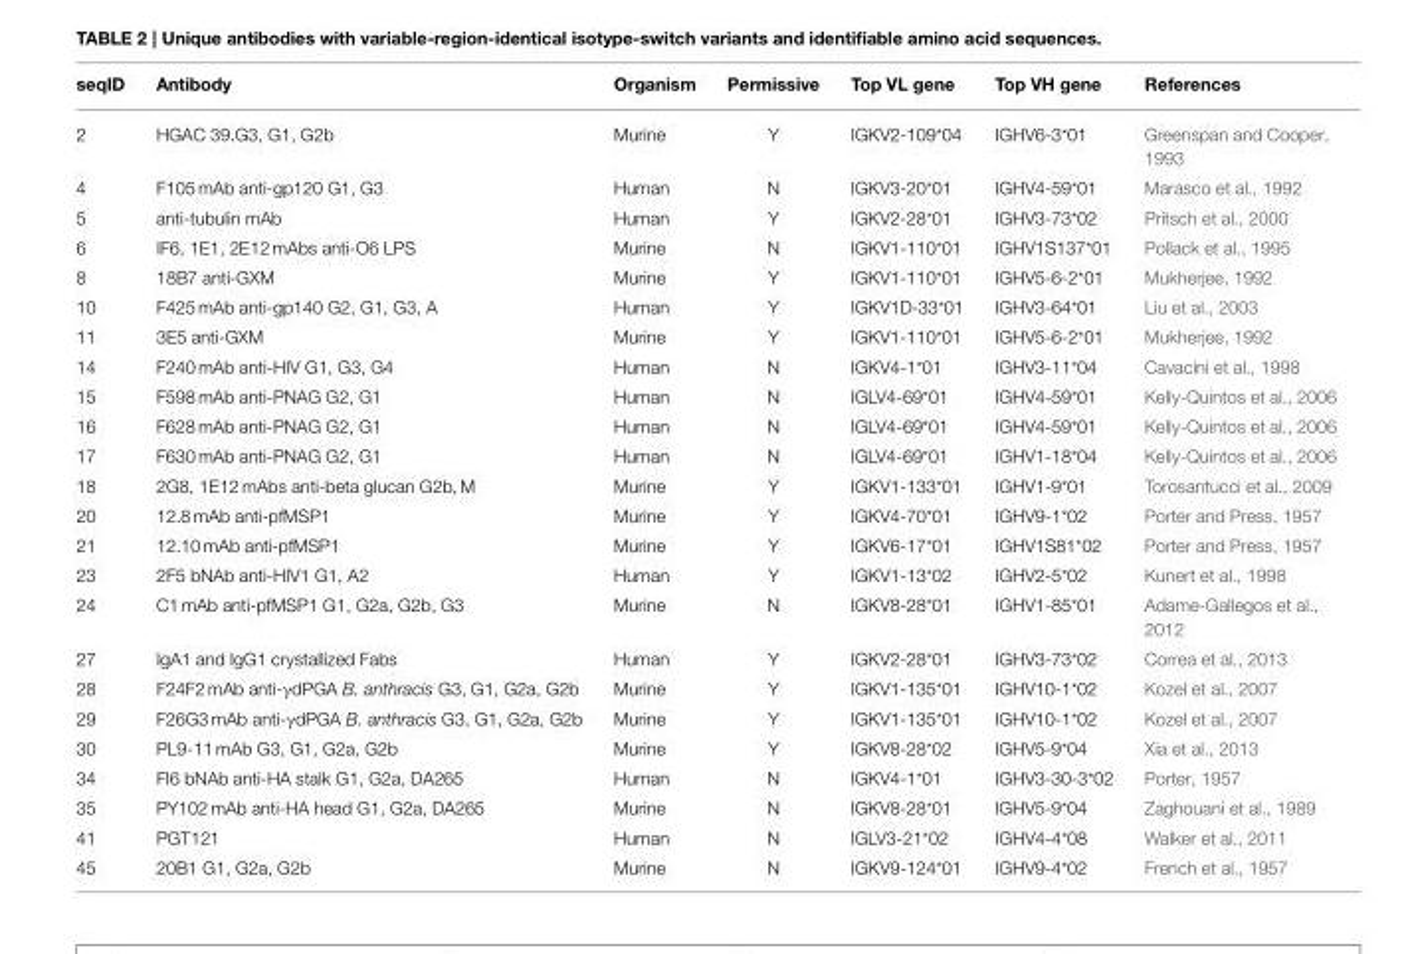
<table><thead><tr><td>seqID</td><td>Antibody</td><td>Organism</td><td>Permissive</td><td>Top VL gene</td><td>Top VH gene</td><td>References</td></tr></thead><tbody><tr><td>2</td><td>HGAC 39.G3, G1, G2b</td><td>Murine</td><td>Y</td><td>IGKV2-109*04</td><td>IGHV6-3*01</td><td>Greenspan and Cooper, 1993</td></tr><tr><td>4</td><td>F105 mAb anti-gp120 G1, G3</td><td>Human</td><td>N</td><td>IGKV3-20*01</td><td>IGHV4-59*01</td><td>Marasco et al., 1992</td></tr><tr><td>5</td><td>anti-tubulin mAb</td><td>Human</td><td>Y</td><td>IGKV2-28*01</td><td>IGHV3-73*02</td><td>Pritsch et al., 2000</td></tr><tr><td>6</td><td>IF6, 1E1, 2E12 mAbs anti-O6 LPS</td><td>Murine</td><td>N</td><td>IGKV1-110*01</td><td>IGHV1S137*01</td><td>Pollack et al., 1995</td></tr><tr><td>8</td><td>18B7 anti-GXM</td><td>Murine</td><td>Y</td><td>IGKV1-110*01</td><td>IGHV5-6-2*01</td><td>Mukherjee, 1992</td></tr><tr><td>10</td><td>F425 mAb anti-gp140 G2, G1, G3, A</td><td>Human</td><td>Y</td><td>IGKV1D-33*01</td><td>IGHV3-64*01</td><td>Liu et al., 2003</td></tr><tr><td>11</td><td>3E5 anti-GXM</td><td>Murine</td><td>Y</td><td>IGKV1-110*01</td><td>IGHV5-6-2*01</td><td>Mukherjee, 1992</td></tr><tr><td>14</td><td>F240 mAb anti-HIV G1, G3, G4</td><td>Human</td><td>N</td><td>IGKV4-1*01</td><td>IGHV3-11*04</td><td>Cavacini et al., 1998</td></tr><tr><td>15</td><td>F598 mAb anti-PNAG G2, G1</td><td>Human</td><td>N</td><td>IGLV4-69*01</td><td>IGHV4-59*01</td><td>Kelly-Quintos et al., 2006</td></tr><tr><td>16</td><td>F628 mAb anti-PNAG G2, G1</td><td>Human</td><td>N</td><td>IGLV4-69*01</td><td>IGHV4-59*01</td><td>Kelly-Quintos et al., 2006</td></tr><tr><td>17</td><td>F630 mAb anti-PNAG G2, G1</td><td>Human</td><td>N</td><td>IGLV4-69*01</td><td>IGHV1-18*04</td><td>Kelly-Quintos et al., 2006</td></tr><tr><td>18</td><td>2G8, 1E12 mAbs anti-beta glucan G2b, M</td><td>Murine</td><td>Y</td><td>IGKV1-133*01</td><td>IGHV1-9*01</td><td>Torosantucci et al., 2009</td></tr><tr><td>20</td><td>12.8 mAb anti-pfMSP1</td><td>Murine</td><td>Y</td><td>IGKV4-70*01</td><td>IGHV9-1*02</td><td>Porter and Press, 1957</td></tr><tr><td>21</td><td>12.10 mAb anti-pfMSP1</td><td>Murine</td><td>Y</td><td>IGKV6-17*01</td><td>IGHV1S81*02</td><td>Porter and Press, 1957</td></tr><tr><td>23</td><td>2F5 bNAb anti-HIV1 G1, A2</td><td>Human</td><td>Y</td><td>IGKV1-13*02</td><td>IGHV2-5*02</td><td>Kunert et al., 1998</td></tr><tr><td>24</td><td>C1 mAb anti-pfMSP1 G1, G2a, G2b, G3</td><td>Murine</td><td>N</td><td>IGKV8-28*01</td><td>IGHV1-85*01</td><td>Adame-Gallegos et al., 2012</td></tr><tr><td>27</td><td>IgA1 and IgG1 crystallized Fabs</td><td>Human</td><td>Y</td><td>IGKV2-28*01</td><td>IGHV3-73*02</td><td>Correa et al., 2013</td></tr><tr><td>28</td><td>F24F2 mAb anti-γdPGA B. anthracis G3, G1, G2a, G2b</td><td>Murine</td><td>Y</td><td>IGKV1-135*01</td><td>IGHV10-1*02</td><td>Kozel et al., 2007</td></tr><tr><td>29</td><td>F26G3 mAb anti-γdPGA B. anthracis G3, G1, G2a, G2b</td><td>Murine</td><td>Y</td><td>IGKV1-135*01</td><td>IGHV10-1*02</td><td>Kozel et al., 2007</td></tr><tr><td>30</td><td>PL9-11 mAb G3, G1, G2a, G2b</td><td>Murine</td><td>Y</td><td>IGKV8-28*02</td><td>IGHV5-9*04</td><td>Xia et al., 2013</td></tr><tr><td>34</td><td>FI6 bNAb anti-HA stalk G1, G2a, DA265</td><td>Human</td><td>N</td><td>IGKV4-1*01</td><td>IGHV3-30-3*02</td><td>Porter, 1957</td></tr><tr><td>35</td><td>PY102 mAb anti-HA head G1, G2a, DA265</td><td>Murine</td><td>N</td><td>IGKV8-28*01</td><td>IGHV5-9*04</td><td>Zaghouani et al., 1989</td></tr><tr><td>41</td><td>PGT121</td><td>Human</td><td>N</td><td>IGLV3-21*02</td><td>IGHV4-4*08</td><td>Walker et al., 2011</td></tr><tr><td>45</td><td>20B1 G1, G2a, G2b</td><td>Murine</td><td>N</td><td>IGKV9-124*01</td><td>IGHV9-4*02</td><td>French et al., 1957</td></tr></tbody></table>